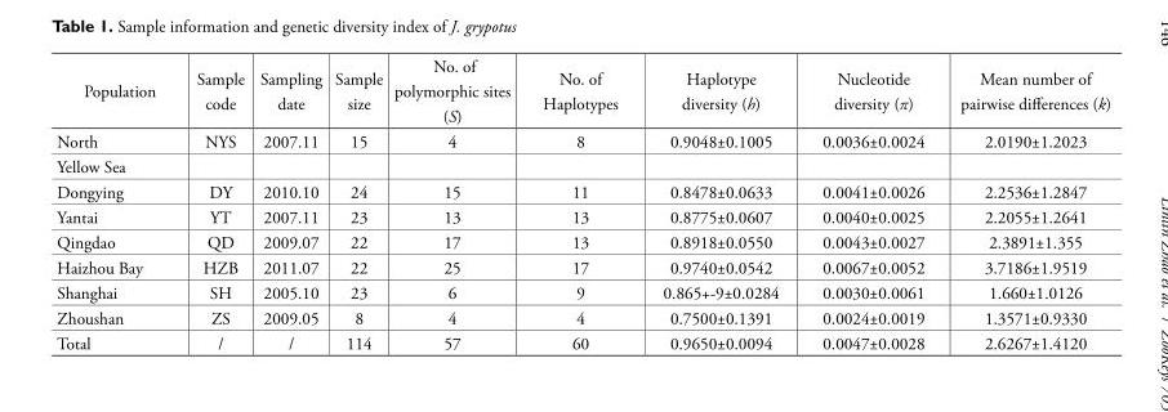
<table><thead><tr><td>Population</td><td>Sample code</td><td>Sampling date</td><td>Sample size</td><td>No. of polymorphic sites (S)</td><td>No. of Haplotypes</td><td>Haplotype diversity (h)</td><td>Nucleotide diversity (π)</td><td>Mean number of pairwise differences (k)</td></tr></thead><tbody><tr><td>North</td><td>NYS</td><td>2007.11</td><td>15</td><td>4</td><td>8</td><td>0.9048±0.1005</td><td>0.0036±0.0024</td><td>2.0190±1.2023</td></tr><tr><td colspan="9">Yellow Sea</td></tr><tr><td>Dongying</td><td>DY</td><td>2010.10</td><td>24</td><td>15</td><td>11</td><td>0.8478±0.0633</td><td>0.0041±0.0026</td><td>2.2536±1.2847</td></tr><tr><td>Yantai</td><td>YT</td><td>2007.11</td><td>23</td><td>13</td><td>13</td><td>0.8775±0.0607</td><td>0.0040±0.0025</td><td>2.2055±1.2641</td></tr><tr><td>Qingdao</td><td>QD</td><td>2009.07</td><td>22</td><td>17</td><td>13</td><td>0.8918±0.0550</td><td>0.0043±0.0027</td><td>2.3891±1.355</td></tr><tr><td>Haizhou Bay</td><td>HZB</td><td>2011.07</td><td>22</td><td>25</td><td>17</td><td>0.9740±0.0542</td><td>0.0067±0.0052</td><td>3.7186±1.9519</td></tr><tr><td>Shanghai</td><td>SH</td><td>2005.10</td><td>23</td><td>6</td><td>9</td><td>0.865+-9±0.0284</td><td>0.0030±0.0061</td><td>1.660±1.0126</td></tr><tr><td>Zhoushan</td><td>ZS</td><td>2009.05</td><td>8</td><td>4</td><td>4</td><td>0.7500±0.1391</td><td>0.0024±0.0019</td><td>1.3571±0.9330</td></tr><tr><td>Total</td><td>/</td><td>/</td><td>114</td><td>57</td><td>60</td><td>0.9650±0.0094</td><td>0.0047±0.0028</td><td>2.6267±1.4120</td></tr></tbody></table>